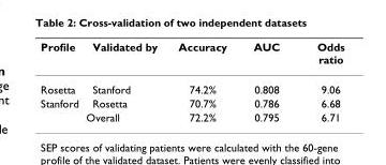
<table><thead><tr><td>Profile</td><td>Validated by</td><td>Accuracy</td><td>AUC</td><td>Odds ratio</td></tr></thead><tbody><tr><td>Rosetta</td><td>Stanford</td><td>74.2%</td><td>0.808</td><td>9.06</td></tr><tr><td>Stanford</td><td>Rosetta</td><td>70.7%</td><td>0.786</td><td>6.68</td></tr><tr><td colspan="2">Overall</td><td>72.2%</td><td>0.795</td><td>6.71</td></tr></tbody></table>